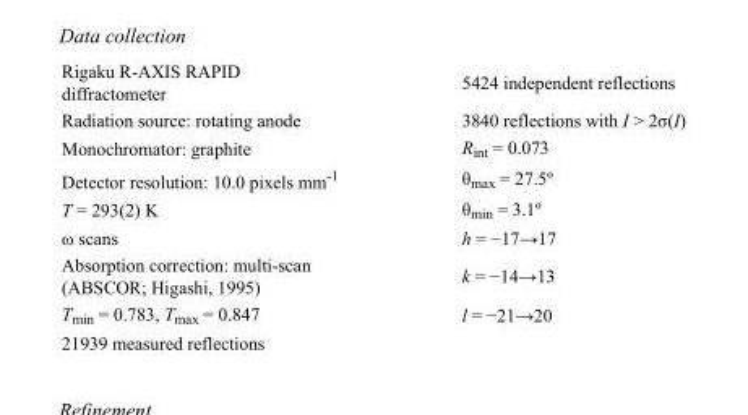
<table><tbody><tr><td>Rigaku R-AXIS RAPID diffractometer</td><td>5424 independent reflections</td></tr><tr><td>Radiation source: rotating anode</td><td>3840 reflections with I &gt; 2σ(I)</td></tr><tr><td>Monochromator: graphite</td><td>R<sub>int</sub> = 0.073</td></tr><tr><td>Detector resolution: 10.0 pixels mm<sup>-1</sup></td><td>θ<sub>max</sub> = 27.5º</td></tr><tr><td>T = 293(2) K</td><td>θ<sub>min</sub> = 3.1º</td></tr><tr><td>ω scans</td><td>h = −17→17</td></tr><tr><td>Absorption correction: multi-scan (ABSCOR; Higashi, 1995)</td><td>k = −14→13</td></tr><tr><td>T<sub>min</sub> = 0.783, T<sub>max</sub> = 0.847</td><td>l = −21→20</td></tr><tr><td>21939 measured reflections</td><td></td></tr></tbody></table>